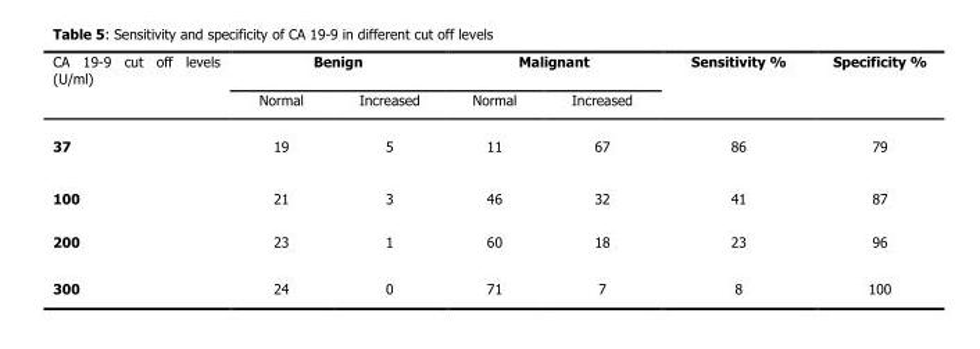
<table><thead><tr><td rowspan="2">CA 19-9 cut off levels (U/ml)</td><td colspan="2">Benign</td><td colspan="2">Malignant</td><td rowspan="2">Sensitivity %</td><td rowspan="2">Specificity %</td></tr><tr><td>Normal</td><td>Increased</td><td>Normal</td><td>Increased</td></tr></thead><tbody><tr><td>37</td><td>19</td><td>5</td><td>11</td><td>67</td><td>86</td><td>79</td></tr><tr><td>100</td><td>21</td><td>3</td><td>46</td><td>32</td><td>41</td><td>87</td></tr><tr><td>200</td><td>23</td><td>1</td><td>60</td><td>18</td><td>23</td><td>96</td></tr><tr><td>300</td><td>24</td><td>0</td><td>71</td><td>7</td><td>8</td><td>100</td></tr></tbody></table>